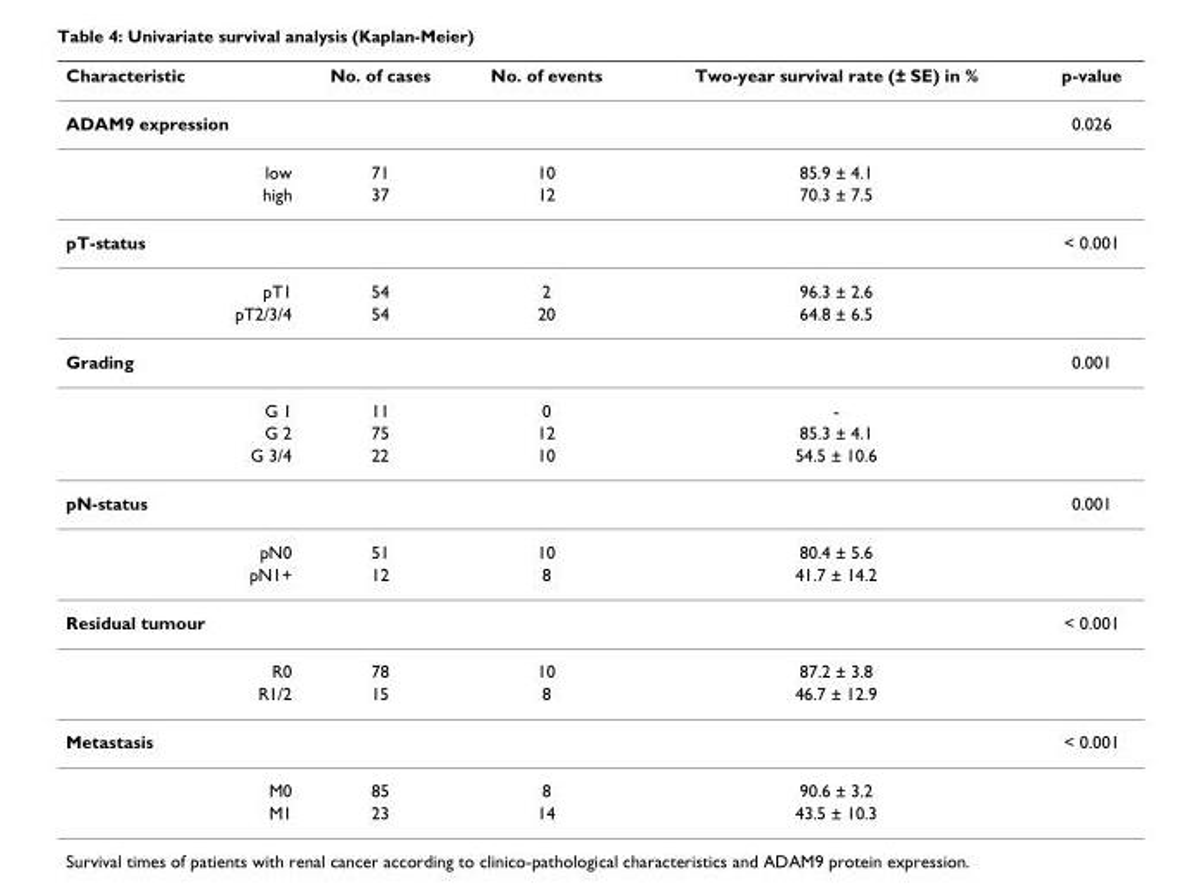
<table><thead><tr><td>Characteristic</td><td>No. of cases</td><td>No. of events</td><td>Two-year survival rate (± SE) in %</td><td>p-value</td></tr></thead><tbody><tr><td>ADAM9 expression</td><td></td><td></td><td></td><td>0.026</td></tr><tr><td>low</td><td>71</td><td>10</td><td>85.9 ± 4.1</td><td></td></tr><tr><td>high</td><td>37</td><td>12</td><td>70.3 ± 7.5</td><td></td></tr><tr><td>pT-status</td><td></td><td></td><td></td><td>&lt; 0.001</td></tr><tr><td>pT1</td><td>54</td><td>2</td><td>96.3 ± 2.6</td><td></td></tr><tr><td>pT2/3/4</td><td>54</td><td>20</td><td>64.8 ± 6.5</td><td></td></tr><tr><td>Grading</td><td></td><td></td><td></td><td>0.001</td></tr><tr><td>G 1</td><td>11</td><td>0</td><td>-</td><td></td></tr><tr><td>G 2</td><td>75</td><td>12</td><td>85.3 ± 4.1</td><td></td></tr><tr><td>G 3/4</td><td>22</td><td>10</td><td>54.5 ± 10.6</td><td></td></tr><tr><td>pN-status</td><td></td><td></td><td></td><td>0.001</td></tr><tr><td>pN0</td><td>51</td><td>10</td><td>80.4 ± 5.6</td><td></td></tr><tr><td>pN1+</td><td>12</td><td>8</td><td>41.7 ± 14.2</td><td></td></tr><tr><td>Residual tumour</td><td></td><td></td><td></td><td>&lt; 0.001</td></tr><tr><td>R0</td><td>78</td><td>10</td><td>87.2 ± 3.8</td><td></td></tr><tr><td>R1/2</td><td>15</td><td>8</td><td>46.7 ± 12.9</td><td></td></tr><tr><td>Metastasis</td><td></td><td></td><td></td><td>&lt; 0.001</td></tr><tr><td>M0</td><td>85</td><td>8</td><td>90.6 ± 3.2</td><td></td></tr><tr><td>M1</td><td>23</td><td>14</td><td>43.5 ± 10.3</td><td></td></tr></tbody></table>